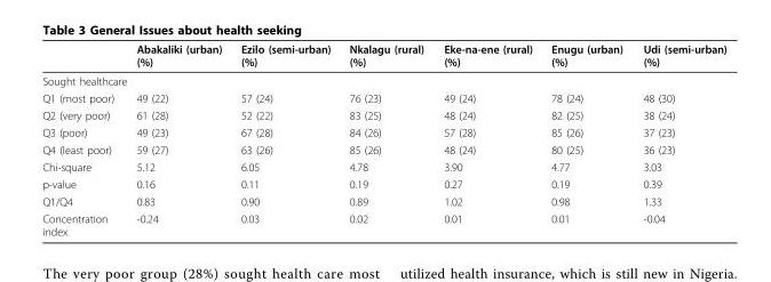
<table><thead><tr><td></td><td>Abakaliki (urban) (%)</td><td>Ezilo (semi-urban) (%)</td><td>Nkalagu (rural) (%)</td><td>Eke-na-ene (rural) (%)</td><td>Enugu (urban) (%)</td><td>Udi (semi-urban) (%)</td></tr></thead><tbody><tr><td colspan="7">Sought healthcare</td></tr><tr><td>Q1 (most poor)</td><td>49 (22)</td><td>57 (24)</td><td>76 (23)</td><td>49 (24)</td><td>78 (24)</td><td>48 (30)</td></tr><tr><td>Q2 (very poor)</td><td>61 (28)</td><td>52 (22)</td><td>83 (25)</td><td>48 (24)</td><td>82 (25)</td><td>38 (24)</td></tr><tr><td>Q3 (poor)</td><td>49 (23)</td><td>67 (28)</td><td>84 (26)</td><td>57 (28)</td><td>85 (26)</td><td>37 (23)</td></tr><tr><td>Q4 (least poor)</td><td>59 (27)</td><td>63 (26)</td><td>85 (26)</td><td>48 (24)</td><td>80 (25)</td><td>36 (23)</td></tr><tr><td>Chi-square</td><td>5.12</td><td>6.05</td><td>4.78</td><td>3.90</td><td>4.77</td><td>3.03</td></tr><tr><td>p-value</td><td>0.16</td><td>0.11</td><td>0.19</td><td>0.27</td><td>0.19</td><td>0.39</td></tr><tr><td>Q1/Q4</td><td>0.83</td><td>0.90</td><td>0.89</td><td>1.02</td><td>0.98</td><td>1.33</td></tr><tr><td>Concentration index</td><td>-0.24</td><td>0.03</td><td>0.02</td><td>0.01</td><td>0.01</td><td>-0.04</td></tr></tbody></table>